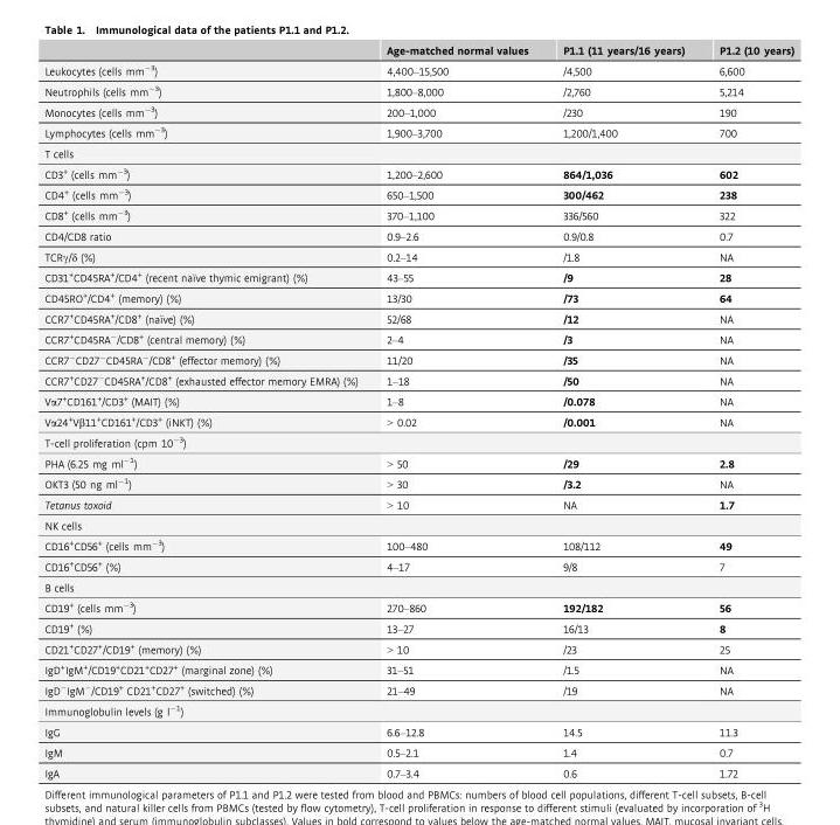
<table><thead><tr><td></td><td>Age-matched normal values</td><td>P1.1 (11 years/16 years)</td><td>P1.2 (10 years)</td></tr></thead><tbody><tr><td>Leukocytes (cells mm<sup>−3</sup>)</td><td>4,400–15,500</td><td>/4,500</td><td>6,600</td></tr><tr><td>Neutrophils (cells mm<sup>−3</sup>)</td><td>1,800–8,000</td><td>/2,760</td><td>5,214</td></tr><tr><td>Monocytes (cells mm<sup>−3</sup>)</td><td>200–1,000</td><td>/230</td><td>190</td></tr><tr><td>Lymphocytes (cells mm<sup>−3</sup>)</td><td>1,900–3,700</td><td>1,200/1,400</td><td>700</td></tr><tr><td colspan="4">T cells</td></tr><tr><td>CD3<sup>+</sup> (cells mm<sup>−3</sup>)</td><td>1,200–2,600</td><td>864/1,036</td><td>602</td></tr><tr><td>CD4<sup>+</sup> (cells mm<sup>−3</sup>)</td><td>650–1,500</td><td>300/462</td><td>238</td></tr><tr><td>CD8<sup>+</sup> (cells mm<sup>−3</sup>)</td><td>370–1,100</td><td>336/560</td><td>322</td></tr><tr><td>CD4/CD8 ratio</td><td>0.9–2.6</td><td>0.9/0.8</td><td>0.7</td></tr><tr><td>TCRγ/δ (%)</td><td>0.2–14</td><td>/1.8</td><td>NA</td></tr><tr><td>CD31<sup>+</sup>CD45RA<sup>+</sup>/CD4<sup>+</sup> (recent naïve thymic emigrant) (%)</td><td>43–55</td><td>/9</td><td>28</td></tr><tr><td>CD45RO<sup>+</sup>/CD4<sup>+</sup> (memory) (%)</td><td>13/30</td><td>/73</td><td>64</td></tr><tr><td>CCR7<sup>+</sup>CD45RA<sup>+</sup>/CD8<sup>+</sup> (naïve) (%)</td><td>52/68</td><td>/12</td><td>NA</td></tr><tr><td>CCR7<sup>+</sup>CD45RA<sup>−</sup>/CD8<sup>+</sup> (central memory) (%)</td><td>2–4</td><td>/3</td><td>NA</td></tr><tr><td>CCR7<sup>−</sup>CD27<sup>−</sup>CD45RA<sup>−</sup>/CD8<sup>+</sup> (effector memory) (%)</td><td>11/20</td><td>/35</td><td>NA</td></tr><tr><td>CCR7<sup>+</sup>CD27<sup>−</sup>CD45RA<sup>+</sup>/CD8<sup>+</sup> (exhausted effector memory EMRA) (%)</td><td>1–18</td><td>/50</td><td>NA</td></tr><tr><td>Vα7<sup>+</sup>CD161<sup>+</sup>/CD3<sup>+</sup> (MAIT) (%)</td><td>1–8</td><td>/0.078</td><td>NA</td></tr><tr><td>Vα24<sup>+</sup>Vβ11<sup>+</sup>CD161<sup>+</sup>/CD3<sup>+</sup> (iNKT) (%)</td><td>&gt; 0.02</td><td>/0.001</td><td>NA</td></tr><tr><td colspan="4">T-cell proliferation (cpm 10<sup>−3</sup>)</td></tr><tr><td>PHA (6.25 mg ml<sup>−1</sup>)</td><td>&gt; 50</td><td>/29</td><td>2.8</td></tr><tr><td>OKT3 (50 ng ml<sup>−1</sup>)</td><td>&gt; 30</td><td>/3.2</td><td>NA</td></tr><tr><td>Tetanus toxoid</td><td>&gt; 10</td><td>NA</td><td>1.7</td></tr><tr><td colspan="4">NK cells</td></tr><tr><td>CD16<sup>+</sup>CD56<sup>+</sup> (cells mm<sup>−3</sup>)</td><td>100–480</td><td>108/112</td><td>49</td></tr><tr><td>CD16<sup>+</sup>CD56<sup>+</sup> (%)</td><td>4–17</td><td>9/8</td><td>7</td></tr><tr><td colspan="4">B cells</td></tr><tr><td>CD19<sup>+</sup> (cells mm<sup>−3</sup>)</td><td>270–860</td><td>192/182</td><td>56</td></tr><tr><td>CD19<sup>+</sup> (%)</td><td>13–27</td><td>16/13</td><td>8</td></tr><tr><td>CD21<sup>+</sup>CD27<sup>+</sup>/CD19<sup>+</sup> (memory) (%)</td><td>&gt; 10</td><td>/23</td><td>25</td></tr><tr><td>IgD<sup>+</sup>IgM<sup>+</sup>/CD19<sup>+</sup>CD21<sup>+</sup>CD27<sup>+</sup> (marginal zone) (%)</td><td>31–51</td><td>/1.5</td><td>NA</td></tr><tr><td>IgD<sup>−</sup>IgM<sup>−</sup>/CD19<sup>+</sup> CD21<sup>+</sup>CD27<sup>+</sup> (switched) (%)</td><td>21–49</td><td>/19</td><td>NA</td></tr><tr><td colspan="4">Immunoglobulin levels (g l<sup>−1</sup>)</td></tr><tr><td>IgG</td><td>6.6–12.8</td><td>14.5</td><td>11.3</td></tr><tr><td>IgM</td><td>0.5–2.1</td><td>1.4</td><td>0.7</td></tr><tr><td>IgA</td><td>0.7–3.4</td><td>0.6</td><td>1.72</td></tr></tbody></table>